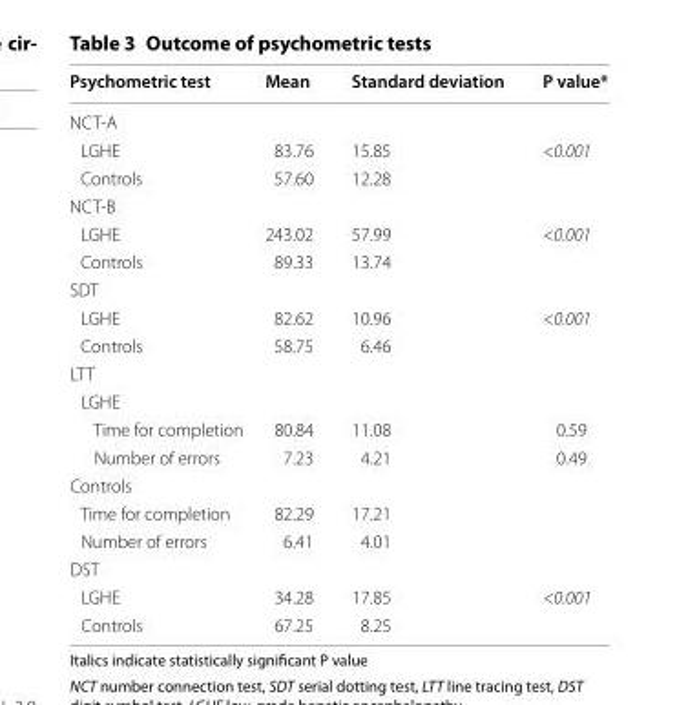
<table><thead><tr><td>Psychometric test</td><td>Mean</td><td>Standard deviation</td><td>P value*</td></tr></thead><tbody><tr><td colspan="4">NCT-A</td></tr><tr><td>LGHE</td><td>83.76</td><td>15.85</td><td>&lt;0.001</td></tr><tr><td>Controls</td><td>57.60</td><td>12.28</td><td></td></tr><tr><td colspan="4">NCT-B</td></tr><tr><td>LGHE</td><td>243.02</td><td>57.99</td><td>&lt;0.001</td></tr><tr><td>Controls</td><td>89.33</td><td>13.74</td><td></td></tr><tr><td colspan="4">SDT</td></tr><tr><td>LGHE</td><td>82.62</td><td>10.96</td><td>&lt;0.001</td></tr><tr><td>Controls</td><td>58.75</td><td>6.46</td><td></td></tr><tr><td colspan="4">LTT</td></tr><tr><td colspan="4">LGHE</td></tr><tr><td>Time for completion</td><td>80.84</td><td>11.08</td><td>0.59</td></tr><tr><td>Number of errors</td><td>7.23</td><td>4.21</td><td>0.49</td></tr><tr><td colspan="4">Controls</td></tr><tr><td>Time for completion</td><td>82.29</td><td>17.21</td><td></td></tr><tr><td>Number of errors</td><td>6.41</td><td>4.01</td><td></td></tr><tr><td colspan="4">DST</td></tr><tr><td>LGHE</td><td>34.28</td><td>17.85</td><td>&lt;0.001</td></tr><tr><td>Controls</td><td>67.25</td><td>8.25</td><td></td></tr></tbody></table>